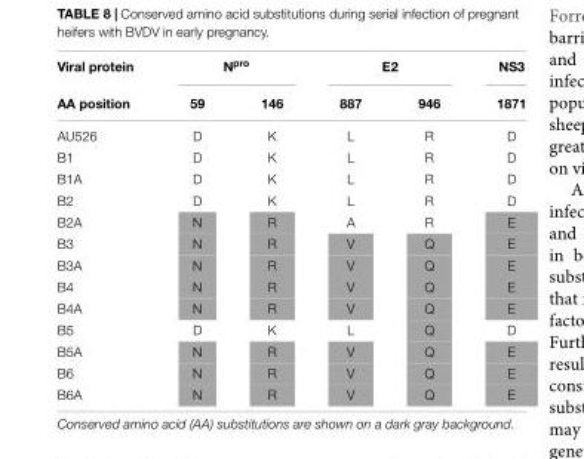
<table><thead><tr><td rowspan="2">Viral protein AA position</td><td colspan="2">N<sup>pro</sup></td><td colspan="2">E2</td><td rowspan="2">NS3 1871</td></tr><tr><td>59</td><td>146</td><td>887</td><td>946</td></tr></thead><tbody><tr><td>AU526</td><td>D</td><td>K</td><td>L</td><td>R</td><td>D</td></tr><tr><td>B1</td><td>D</td><td>K</td><td>L</td><td>R</td><td>D</td></tr><tr><td>B1A</td><td>D</td><td>K</td><td>L</td><td>R</td><td>D</td></tr><tr><td>B2</td><td>D</td><td>K</td><td>L</td><td>R</td><td>D</td></tr><tr><td>B2A</td><td>N</td><td>R</td><td>A</td><td>R</td><td>E</td></tr><tr><td>B3</td><td>N</td><td>R</td><td>V</td><td>Q</td><td>E</td></tr><tr><td>B3A</td><td>N</td><td>R</td><td>V</td><td>Q</td><td>E</td></tr><tr><td>B4</td><td>N</td><td>R</td><td>V</td><td>Q</td><td>E</td></tr><tr><td>B4A</td><td>N</td><td>R</td><td>V</td><td>Q</td><td>E</td></tr><tr><td>B5</td><td>D</td><td>K</td><td>L</td><td>Q</td><td>D</td></tr><tr><td>B5A</td><td>N</td><td>R</td><td>V</td><td>Q</td><td>E</td></tr><tr><td>B6</td><td>N</td><td>R</td><td>V</td><td>Q</td><td>E</td></tr><tr><td>B6A</td><td>N</td><td>R</td><td>V</td><td>Q</td><td>E</td></tr></tbody></table>